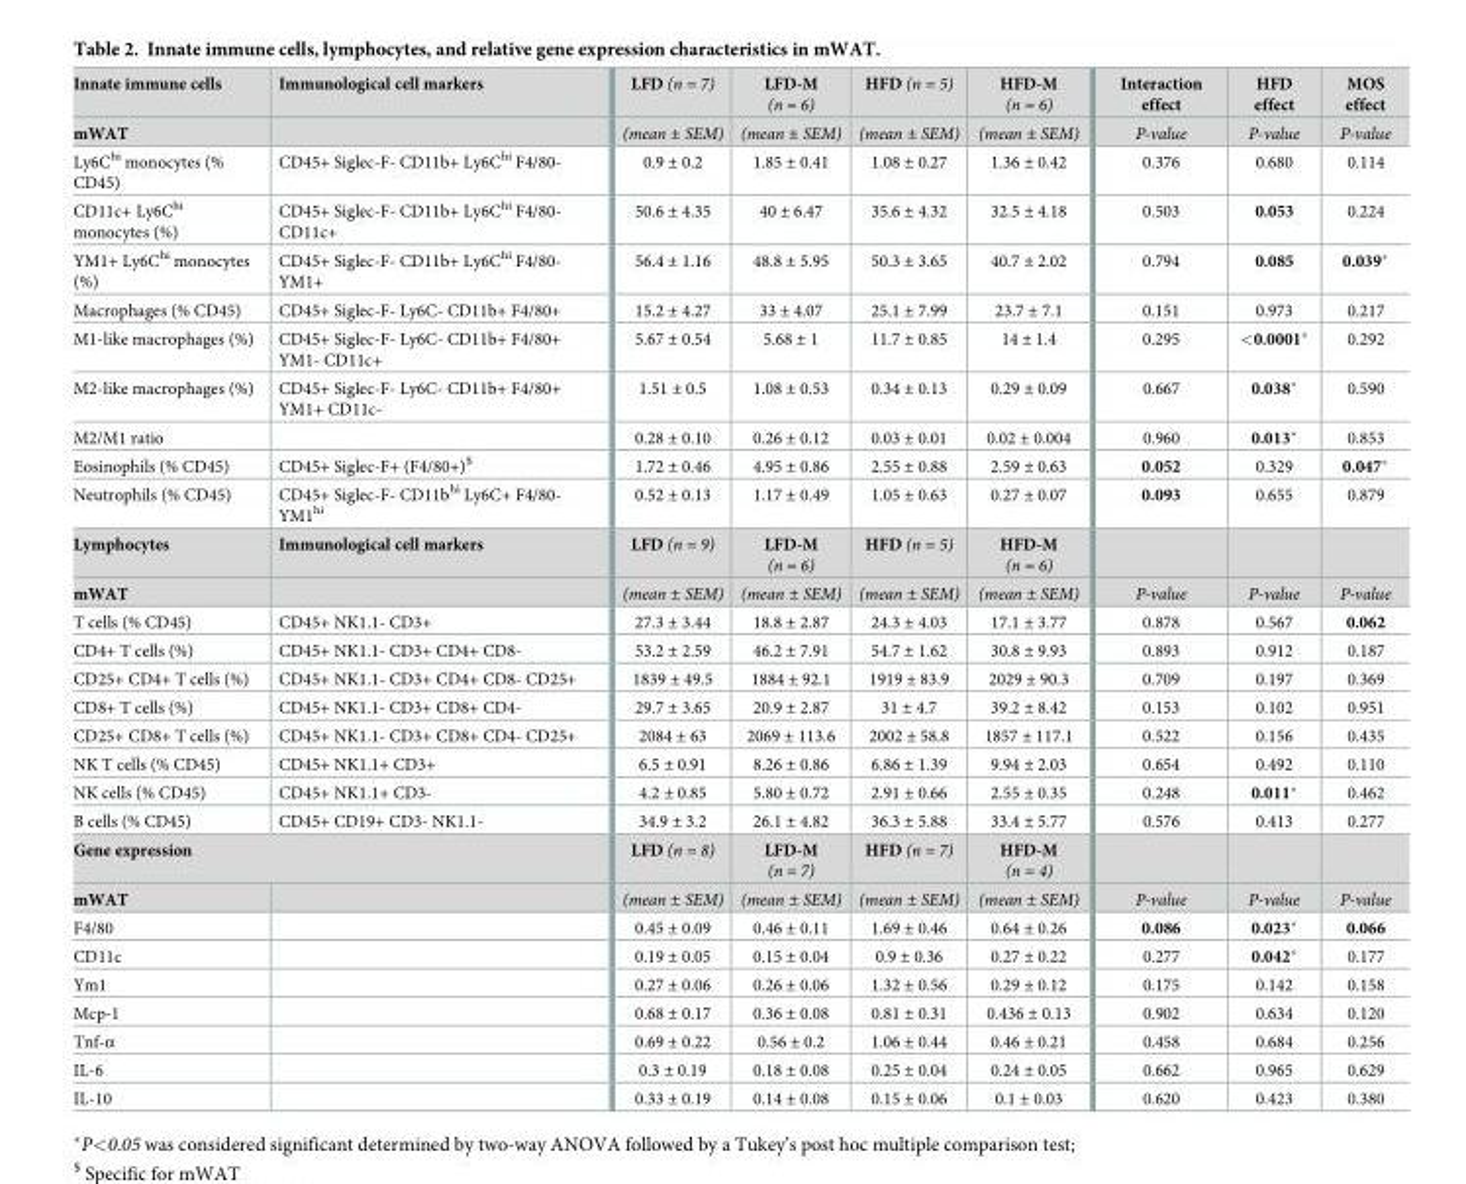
<table><tbody><tr><td>Innate immune cells</td><td>Immunological cell markers</td><td>LFD (n = 7)</td><td>LFD-M (n = 6)</td><td>HFD (n = 5)</td><td>HFD-M (n = 6)</td><td>Interaction effect</td><td>HFD effect</td><td>MOS effect</td></tr><tr><td>mWAT</td><td></td><td>(mean ± SEM)</td><td>(mean ± SEM)</td><td>(mean ± SEM)</td><td>(mean ± SEM)</td><td>P-value</td><td>P-value</td><td>P-value</td></tr><tr><td>Ly6C<sup>hi</sup> monocytes (% CD45)</td><td>CD45+ Siglec-F- CD11b+ Ly6C<sup>hi</sup> F4/80-</td><td>0.9 ± 0.2</td><td>1.85 ± 0.41</td><td>1.08 ± 0.27</td><td>1.36 ± 0.42</td><td>0.376</td><td>0.680</td><td>0.114</td></tr><tr><td>CD11c+ Ly6C<sup>hi</sup> monocytes (%)</td><td>CD45+ Siglec-F- CD11b+ Ly6C<sup>hi</sup> F4/80- CD11c+</td><td>50.6 ± 4.35</td><td>40 ± 6.47</td><td>35.6 ± 4.32</td><td>32.5 ± 4.18</td><td>0.503</td><td>0.053</td><td>0.224</td></tr><tr><td>YM1+ Ly6C<sup>hi</sup> monocytes (%)</td><td>CD45+ Siglec-F- CD11b+ Ly6C<sup>hi</sup> F4/80- YM1+</td><td>56.4 ± 1.16</td><td>48.8 ± 5.95</td><td>50.3 ± 3.65</td><td>40.7 ± 2.02</td><td>0.794</td><td>0.085</td><td>0.039*</td></tr><tr><td>Macrophages (% CD45)</td><td>CD45+ Siglec-F- Ly6C- CD11b+ F4/80+</td><td>15.2 ± 4.27</td><td>33 ± 4.07</td><td>25.1 ± 7.99</td><td>23.7 ± 7.1</td><td>0.151</td><td>0.973</td><td>0.217</td></tr><tr><td>M1-like macrophages (%)</td><td>CD45+ Siglec-F- Ly6C- CD11b+ F4/80+ YM1- CD11c+</td><td>5.67 ± 0.54</td><td>5.68 ± 1</td><td>11.7 ± 0.85</td><td>14 ± 1.4</td><td>0.295</td><td>&lt;0.0001*</td><td>0.292</td></tr><tr><td>M2-like macrophages (%)</td><td>CD45+ Siglec-F- Ly6C- CD11b+ F4/80+ YM1+ CD11c-</td><td>1.51 ± 0.5</td><td>1.08 ± 0.53</td><td>0.34 ± 0.13</td><td>0.29 ± 0.09</td><td>0.667</td><td>0.038*</td><td>0.590</td></tr><tr><td>M2/M1 ratio</td><td></td><td>0.28 ± 0.10</td><td>0.26 ± 0.12</td><td>0.03 ± 0.01</td><td>0.02 ± 0.004</td><td>0.960</td><td>0.013*</td><td>0.853</td></tr><tr><td>Eosinophils (% CD45)</td><td>CD45+ Siglec-F+ (F4/80+)<sup>$</sup></td><td>1.72 ± 0.46</td><td>4.95 ± 0.86</td><td>2.55 ± 0.88</td><td>2.59 ± 0.63</td><td>0.052</td><td>0.329</td><td>0.047*</td></tr><tr><td>Neutrophils (% CD45)</td><td>CD45+ Siglec-F- CD11b<sup>hi</sup> Ly6C+ F4/80- YM1<sup>hi</sup></td><td>0.52 ± 0.13</td><td>1.17 ± 0.49</td><td>1.05 ± 0.63</td><td>0.27 ± 0.07</td><td>0.093</td><td>0.655</td><td>0.879</td></tr><tr><td>Lymphocytes</td><td>Immunological cell markers</td><td>LFD (n = 9)</td><td>LFD-M (n = 6)</td><td>HFD (n = 5)</td><td>HFD-M (n = 6)</td><td></td><td></td><td></td></tr><tr><td>mWAT</td><td></td><td>(mean ± SEM)</td><td>(mean ± SEM)</td><td>(mean ± SEM)</td><td>(mean ± SEM)</td><td>P-value</td><td>P-value</td><td>P-value</td></tr><tr><td>T cells (% CD45)</td><td>CD45+ NK1.1- CD3+</td><td>27.3 ± 3.44</td><td>18.8 ± 2.87</td><td>24.3 ± 4.03</td><td>17.1 ± 3.77</td><td>0.878</td><td>0.567</td><td>0.062</td></tr><tr><td>CD4+ T cells (%)</td><td>CD45+ NK1.1- CD3+ CD4+ CD8-</td><td>53.2 ± 2.59</td><td>46.2 ± 7.91</td><td>54.7 ± 1.62</td><td>30.8 ± 9.93</td><td>0.893</td><td>0.912</td><td>0.187</td></tr><tr><td>CD25+ CD4+ T cells (%)</td><td>CD45+ NK1.1- CD3+ CD4+ CD8- CD25+</td><td>1839 ± 49.5</td><td>1884 ± 92.1</td><td>1919 ± 83.9</td><td>2029 ± 90.3</td><td>0.709</td><td>0.197</td><td>0.369</td></tr><tr><td>CD8+ T cells (%)</td><td>CD45+ NK1.1- CD3+ CD8+ CD4-</td><td>29.7 ± 3.65</td><td>20.9 ± 2.87</td><td>31 ± 4.7</td><td>39.2 ± 8.42</td><td>0.153</td><td>0.102</td><td>0.951</td></tr><tr><td>CD25+ CD8+ T cells (%)</td><td>CD45+ NK1.1- CD3+ CD8+ CD4- CD25+</td><td>2084 ± 63</td><td>2069 ± 113.6</td><td>2002 ± 58.8</td><td>1857 ± 117.1</td><td>0.522</td><td>0.156</td><td>0.435</td></tr><tr><td>NK T cells (% CD45)</td><td>CD45+ NK1.1+ CD3+</td><td>6.5 ± 0.91</td><td>8.26 ± 0.86</td><td>6.86 ± 1.39</td><td>9.94 ± 2.03</td><td>0.654</td><td>0.492</td><td>0.110</td></tr><tr><td>NK cells (% CD45)</td><td>CD45+ NK1.1+ CD3-</td><td>4.2 ± 0.85</td><td>5.80 ± 0.72</td><td>2.91 ± 0.66</td><td>2.55 ± 0.35</td><td>0.248</td><td>0.011*</td><td>0.462</td></tr><tr><td>B cells (% CD45)</td><td>CD45+ CD19+ CD3- NK1.1-</td><td>34.9 ± 3.2</td><td>26.1 ± 4.82</td><td>36.3 ± 5.88</td><td>33.4 ± 5.77</td><td>0.576</td><td>0.413</td><td>0.277</td></tr><tr><td colspan="2">Gene expression</td><td>LFD (n = 8)</td><td>LFD-M (n = 7)</td><td>HFD (n = 7)</td><td>HFD-M (n = 4)</td><td></td><td></td><td></td></tr><tr><td>mWAT</td><td></td><td>(mean ± SEM)</td><td>(mean ± SEM)</td><td>(mean ± SEM)</td><td>(mean ± SEM)</td><td>P-value</td><td>P-value</td><td>P-value</td></tr><tr><td>F4/80</td><td></td><td>0.45 ± 0.09</td><td>0.46 ± 0.11</td><td>1.69 ± 0.46</td><td>0.64 ± 0.26</td><td>0.086</td><td>0.023*</td><td>0.066</td></tr><tr><td>CD11c</td><td></td><td>0.19 ± 0.05</td><td>0.15 ± 0.04</td><td>0.9 ± 0.36</td><td>0.27 ± 0.22</td><td>0.277</td><td>0.042*</td><td>0.177</td></tr><tr><td>Ym1</td><td></td><td>0.27 ± 0.06</td><td>0.26 ± 0.06</td><td>1.32 ± 0.56</td><td>0.29 ± 0.12</td><td>0.175</td><td>0.142</td><td>0.158</td></tr><tr><td>Mcp-1</td><td></td><td>0.68 ± 0.17</td><td>0.36 ± 0.08</td><td>0.81 ± 0.31</td><td>0.436 ± 0.13</td><td>0.902</td><td>0.634</td><td>0.120</td></tr><tr><td>Tnf-α</td><td></td><td>0.69 ± 0.22</td><td>0.56 ± 0.2</td><td>1.06 ± 0.44</td><td>0.46 ± 0.21</td><td>0.458</td><td>0.684</td><td>0.256</td></tr><tr><td>IL-6</td><td></td><td>0.3 ± 0.19</td><td>0.18 ± 0.08</td><td>0.25 ± 0.04</td><td>0.24 ± 0.05</td><td>0.662</td><td>0.965</td><td>0.629</td></tr><tr><td>IL-10</td><td></td><td>0.33 ± 0.19</td><td>0.14 ± 0.08</td><td>0.15 ± 0.06</td><td>0.1 ± 0.03</td><td>0.620</td><td>0.423</td><td>0.380</td></tr></tbody></table>